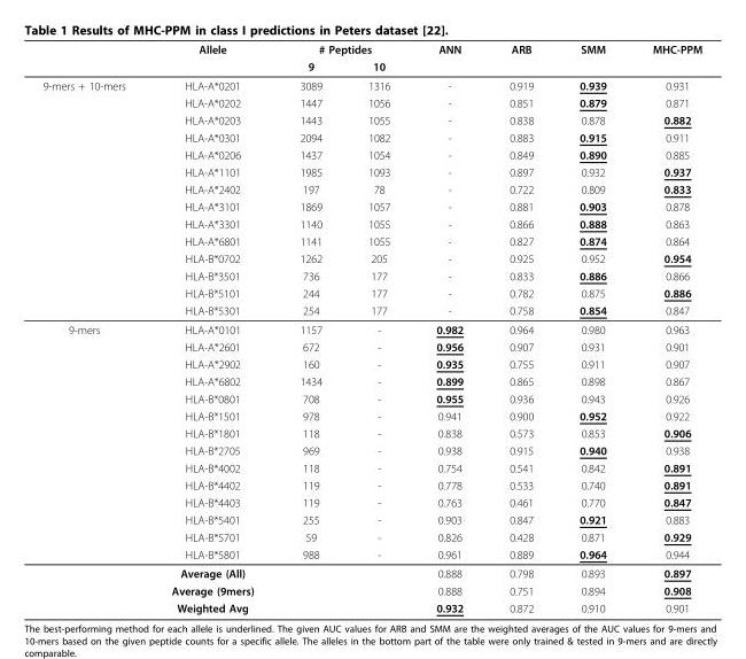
<table><thead><tr><td rowspan="2"></td><td rowspan="2">Allele</td><td colspan="2"># Peptides</td><td rowspan="2">ANN</td><td rowspan="2">ARB</td><td rowspan="2">SMM</td><td rowspan="2">MHC-PPM</td></tr><tr><td>9</td><td>10</td></tr></thead><tbody><tr><td rowspan="14">9-mers + 10-mers</td><td>HLA-A*0201</td><td>3089</td><td>1316</td><td>-</td><td>0.919</td><td>0.939</td><td>0.931</td></tr><tr><td>HLA-A*0202</td><td>1447</td><td>1056</td><td>-</td><td>0.851</td><td>0.879</td><td>0.871</td></tr><tr><td>HLA-A*0203</td><td>1443</td><td>1055</td><td>-</td><td>0.838</td><td>0.878</td><td>0.882</td></tr><tr><td>HLA-A*0301</td><td>2094</td><td>1082</td><td>-</td><td>0.883</td><td>0.915</td><td>0.911</td></tr><tr><td>HLA-A*0206</td><td>1437</td><td>1054</td><td>-</td><td>0.849</td><td>0.890</td><td>0.885</td></tr><tr><td>HLA-A*1101</td><td>1985</td><td>1093</td><td>-</td><td>0.897</td><td>0.932</td><td>0.937</td></tr><tr><td>HLA-A*2402</td><td>197</td><td>78</td><td>-</td><td>0.722</td><td>0.809</td><td>0.833</td></tr><tr><td>HLA-A*3101</td><td>1869</td><td>1057</td><td>-</td><td>0.881</td><td>0.903</td><td>0.878</td></tr><tr><td>HLA-A*3301</td><td>1140</td><td>1055</td><td>-</td><td>0.866</td><td>0.888</td><td>0.863</td></tr><tr><td>HLA-A*6801</td><td>1141</td><td>1055</td><td>-</td><td>0.827</td><td>0.874</td><td>0.864</td></tr><tr><td>HLA-B*0702</td><td>1262</td><td>205</td><td>-</td><td>0.925</td><td>0.952</td><td>0.954</td></tr><tr><td>HLA-B*3501</td><td>736</td><td>177</td><td>-</td><td>0.833</td><td>0.886</td><td>0.866</td></tr><tr><td>HLA-B*5101</td><td>244</td><td>177</td><td>-</td><td>0.782</td><td>0.875</td><td>0.886</td></tr><tr><td>HLA-B*5301</td><td>254</td><td>177</td><td>-</td><td>0.758</td><td>0.854</td><td>0.847</td></tr><tr><td rowspan="17">9-mers</td><td>HLA-A*0101</td><td>1157</td><td>-</td><td>0.982</td><td>0.964</td><td>0.980</td><td>0.963</td></tr><tr><td>HLA-A*2601</td><td>672</td><td>-</td><td>0.956</td><td>0.907</td><td>0.931</td><td>0.901</td></tr><tr><td>HLA-A*2902</td><td>160</td><td>-</td><td>0.935</td><td>0.755</td><td>0.911</td><td>0.907</td></tr><tr><td>HLA-A*6802</td><td>1434</td><td>-</td><td>0.899</td><td>0.865</td><td>0.898</td><td>0.867</td></tr><tr><td>HLA-B*0801</td><td>708</td><td>-</td><td>0.955</td><td>0.936</td><td>0.943</td><td>0.926</td></tr><tr><td>HLA-B*1501</td><td>978</td><td>-</td><td>0.941</td><td>0.900</td><td>0.952</td><td>0.922</td></tr><tr><td>HLA-B*1801</td><td>118</td><td>-</td><td>0.838</td><td>0.573</td><td>0.853</td><td>0.906</td></tr><tr><td>HLA-B*2705</td><td>969</td><td>-</td><td>0.938</td><td>0.915</td><td>0.940</td><td>0.938</td></tr><tr><td>HLA-B*4002</td><td>118</td><td>-</td><td>0.754</td><td>0.541</td><td>0.842</td><td>0.891</td></tr><tr><td>HLA-B*4402</td><td>119</td><td>-</td><td>0.778</td><td>0.533</td><td>0.740</td><td>0.891</td></tr><tr><td>HLA-B*4403</td><td>119</td><td>-</td><td>0.763</td><td>0.461</td><td>0.770</td><td>0.847</td></tr><tr><td>HLA-B*5401</td><td>255</td><td>-</td><td>0.903</td><td>0.847</td><td>0.921</td><td>0.883</td></tr><tr><td>HLA-B*5701</td><td>59</td><td>-</td><td>0.826</td><td>0.428</td><td>0.871</td><td>0.929</td></tr><tr><td>HLA-B*5801</td><td>988</td><td>-</td><td>0.961</td><td>0.889</td><td>0.964</td><td>0.944</td></tr><tr><td>Average (All)</td><td></td><td></td><td>0.888</td><td>0.798</td><td>0.893</td><td>0.897</td></tr><tr><td>Average (9mers)</td><td></td><td></td><td>0.888</td><td>0.751</td><td>0.894</td><td>0.908</td></tr><tr><td>Weighted Avg</td><td></td><td></td><td>0.932</td><td>0.872</td><td>0.910</td><td>0.901</td></tr></tbody></table>